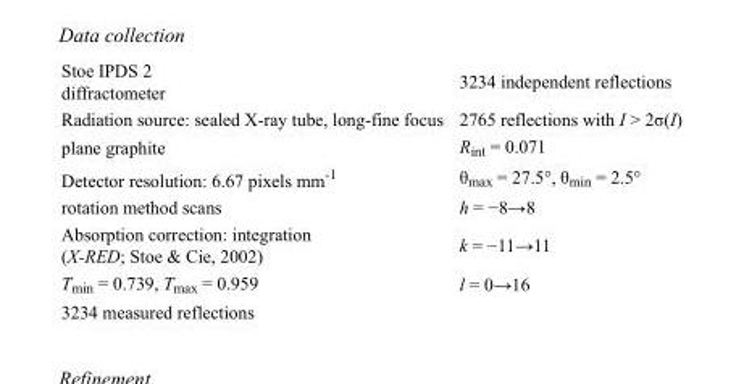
<table><tbody><tr><td>Stoe IPDS 2 diffractometer</td><td>3234 independent reflections</td></tr><tr><td>Radiation source: sealed X-ray tube, long-fine focus</td><td>2765 reflections with I &gt; 2σ(I)</td></tr><tr><td>plane graphite</td><td>R<sub>int</sub> = 0.071</td></tr><tr><td>Detector resolution: 6.67 pixels mm<sup>-1</sup></td><td>θ<sub>max</sub> = 27.5°, θ<sub>min</sub> = 2.5°</td></tr><tr><td>rotation method scans</td><td>h = −8→8</td></tr><tr><td>Absorption correction: integration (X-RED; Stoe &amp; Cie, 2002)</td><td>k = −11→11</td></tr><tr><td>T<sub>min</sub> = 0.739, T<sub>max</sub> = 0.959</td><td>l = 0→16</td></tr><tr><td>3234 measured reflections</td><td></td></tr></tbody></table>